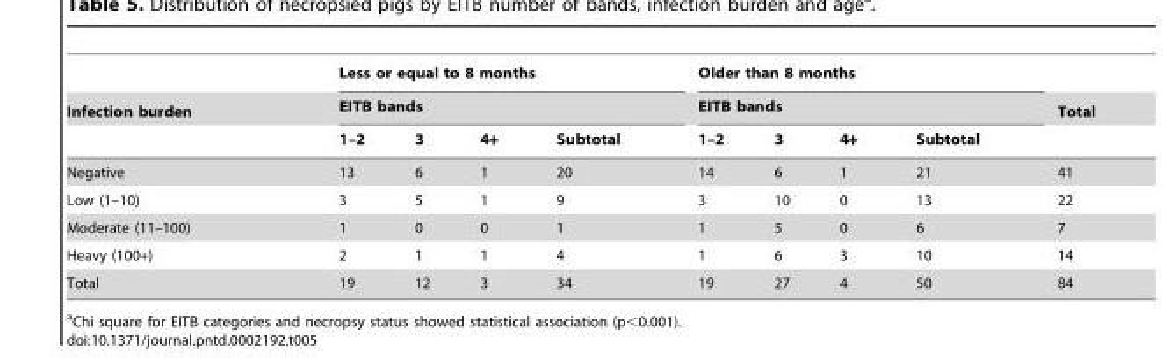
<table><thead><tr><td rowspan="3">Infection burden</td><td rowspan="2" colspan="4">Less or equal to 8 months EITB bands</td><td rowspan="2" colspan="4">Older than 8 months EITB bands</td><td rowspan="3">Total</td></tr><tr></tr><tr><td>1–2</td><td>3</td><td>4+</td><td>Subtotal</td><td>1–2</td><td>3</td><td>4+</td><td>Subtotal</td></tr></thead><tbody><tr><td>Negative</td><td>13</td><td>6</td><td>1</td><td>20</td><td>14</td><td>6</td><td>1</td><td>21</td><td>41</td></tr><tr><td>Low (1–10)</td><td>3</td><td>5</td><td>1</td><td>9</td><td>3</td><td>10</td><td>0</td><td>13</td><td>22</td></tr><tr><td>Moderate (11–100)</td><td>1</td><td>0</td><td>0</td><td>1</td><td>1</td><td>5</td><td>0</td><td>6</td><td>7</td></tr><tr><td>Heavy (100+)</td><td>2</td><td>1</td><td>1</td><td>4</td><td>1</td><td>6</td><td>3</td><td>10</td><td>14</td></tr><tr><td>Total</td><td>19</td><td>12</td><td>3</td><td>34</td><td>19</td><td>27</td><td>4</td><td>50</td><td>84</td></tr></tbody></table>